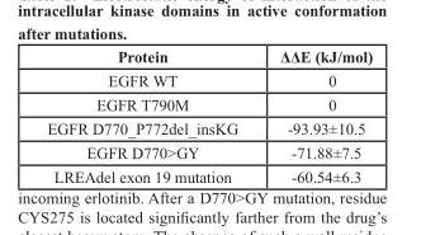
<table><thead><tr><td>Protein</td><td>ΔΔE (kJ/mol)</td></tr></thead><tbody><tr><td>EGFR WT</td><td>0</td></tr><tr><td>EGFR T790M</td><td>0</td></tr><tr><td>EGFR D770_P772del_insKG</td><td>-93.93±10.5</td></tr><tr><td>EGFR D770&gt;GY</td><td>-71.88±7.5</td></tr><tr><td>LREAdel exon 19 mutation</td><td>-60.54±6.3</td></tr></tbody></table>